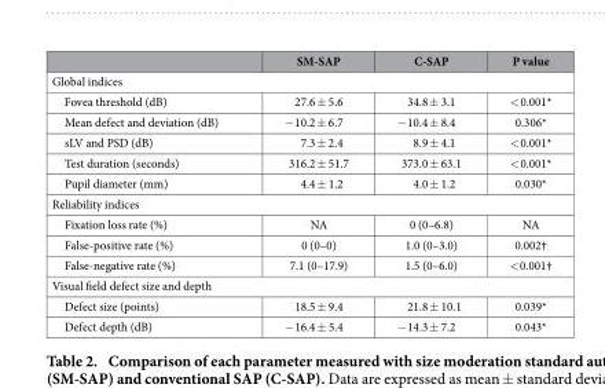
<table><thead><tr><td></td><td>SM-SAP</td><td>C-SAP</td><td>P value</td></tr></thead><tbody><tr><td colspan="4">Global indices</td></tr><tr><td>Fovea threshold (dB)</td><td>27.6 ± 5.6</td><td>34.8 ± 3.1</td><td>&lt; 0.001*</td></tr><tr><td>Mean defect and deviation (dB)</td><td>− 10.2 ± 6.7</td><td>− 10.4 ± 8.4</td><td>0.306*</td></tr><tr><td>sLV and PSD (dB)</td><td>7.3 ± 2.4</td><td>8.9 ± 4.1</td><td>&lt; 0.001*</td></tr><tr><td>Test duration (seconds)</td><td>316.2 ± 51.7</td><td>373.0 ± 63.1</td><td>&lt; 0.001*</td></tr><tr><td>Pupil diameter (mm)</td><td>4.4 ± 1.2</td><td>4.0 ± 1.2</td><td>0.030*</td></tr><tr><td colspan="4">Reliability indices</td></tr><tr><td>Fixation loss rate (%)</td><td>NA</td><td>0 (0–6.8)</td><td>NA</td></tr><tr><td>False-positive rate (%)</td><td>0 (0–0)</td><td>1.0 (0–3.0)</td><td>0.002†</td></tr><tr><td>False-negative rate (%)</td><td>7.1 (0–17.9)</td><td>1.5 (0–6.0)</td><td>&lt; 0.001†</td></tr><tr><td colspan="4">Visual field defect size and depth</td></tr><tr><td>Defect size (points)</td><td>18.5 ± 9.4</td><td>21.8 ± 10.1</td><td>0.039*</td></tr><tr><td>Defect depth (dB)</td><td>− 16.4 ± 5.4</td><td>− 14.3 ± 7.2</td><td>0.043*</td></tr></tbody></table>